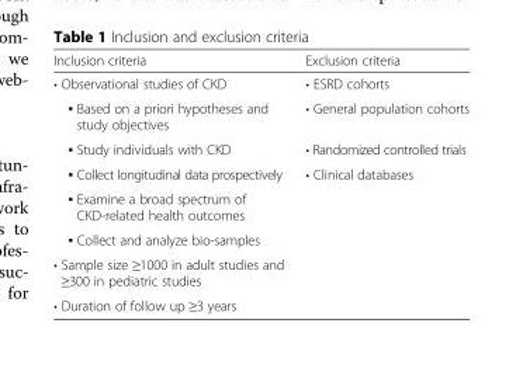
<table><thead><tr><td>Inclusion criteria</td><td>Exclusion criteria</td></tr></thead><tbody><tr><td>• Observational studies of CKD</td><td>• ESRD cohorts</td></tr><tr><td>▪ Based on a priori hypotheses and study objectives</td><td>• General population cohorts</td></tr><tr><td>▪ Study individuals with CKD</td><td>• Randomized controlled trials</td></tr><tr><td>▪ Collect longitudinal data prospectively</td><td>• Clinical databases</td></tr><tr><td colspan="2">▪ Examine a broad spectrum of CKD-related health outcomes</td></tr><tr><td colspan="2">▪ Collect and analyze bio-samples</td></tr><tr><td colspan="2">• Sample size ≥1000 in adult studies and ≥300 in pediatric studies</td></tr><tr><td>• Duration of follow up ≥3 years</td><td></td></tr></tbody></table>